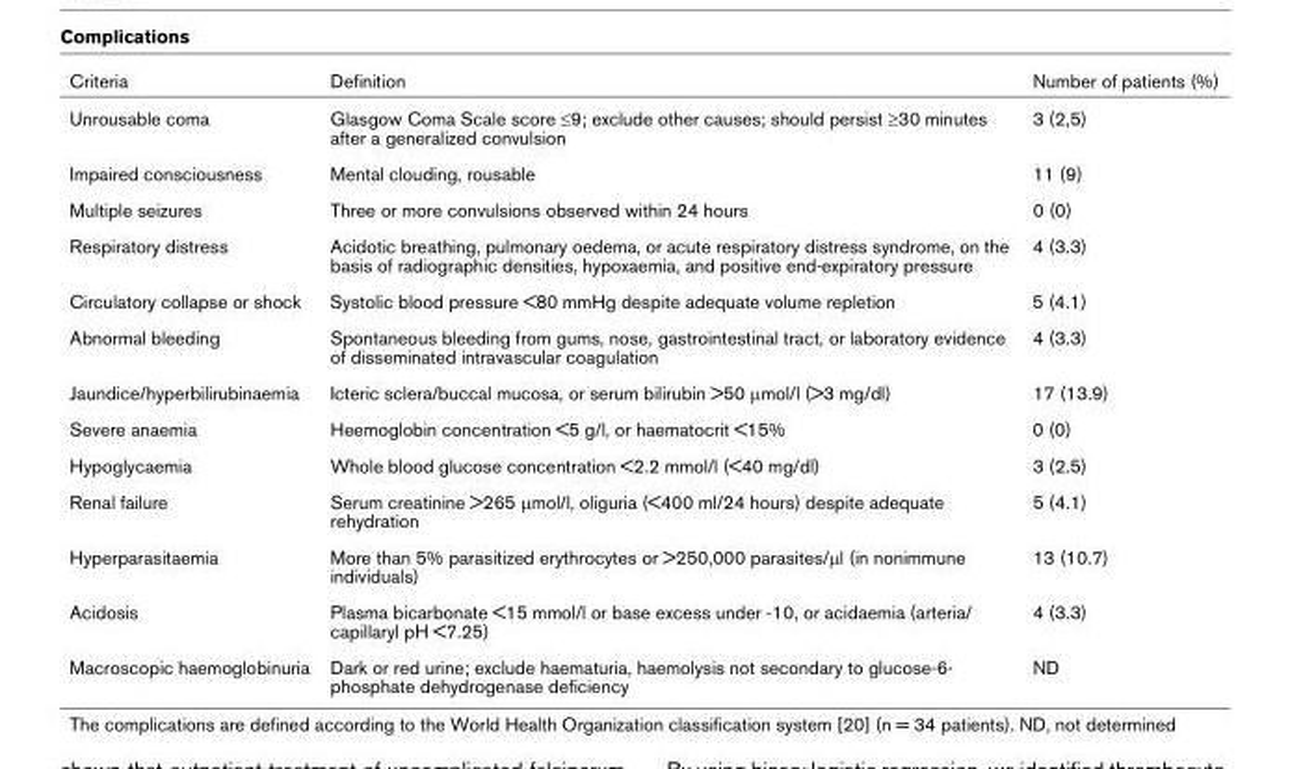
<table><thead><tr><td>Criteria</td><td>Definition</td><td>Number of patients (%)</td></tr></thead><tbody><tr><td>Unrousable coma</td><td>Glasgow Coma Scale score ≤9; exclude other causes; should persist ≥30 minutes after a generalized convulsion</td><td>3 (2,5)</td></tr><tr><td>Impaired consciousness</td><td>Mental clouding, rousable</td><td>11 (9)</td></tr><tr><td>Multiple seizures</td><td>Three or more convulsions observed within 24 hours</td><td>0 (0)</td></tr><tr><td>Respiratory distress</td><td>Acidotic breathing, pulmonary oedema, or acute respiratory distress syndrome, on the basis of radiographic densities, hypoxaemia, and positive end-expiratory pressure</td><td>4 (3.3)</td></tr><tr><td>Circulatory collapse or shock</td><td>Systolic blood pressure &lt;80 mmHg despite adequate volume repletion</td><td>5 (4.1)</td></tr><tr><td>Abnormal bleeding</td><td>Spontaneous bleeding from gums, nose, gastrointestinal tract, or laboratory evidence of disseminated intravascular coagulation</td><td>4 (3.3)</td></tr><tr><td>Jaundice/hyperbilirubinaemia</td><td>Icteric sclera/buccal mucosa, or serum bilirubin &gt;50 μmol/l (&gt;3 mg/dl)</td><td>17 (13.9)</td></tr><tr><td>Severe anaemia</td><td>Heemoglobin concentration &lt;5 g/l, or haematocrit &lt;15%</td><td>0 (0)</td></tr><tr><td>Hypoglycaemia</td><td>Whole blood glucose concentration &lt;2.2 mmol/l (&lt;40 mg/dl)</td><td>3 (2.5)</td></tr><tr><td>Renal failure</td><td>Serum creatinine &gt;265 μmol/l, oliguria (&lt;400 ml/24 hours) despite adequate rehydration</td><td>5 (4.1)</td></tr><tr><td>Hyperparasitaemia</td><td>More than 5% parasitized erythrocytes or &gt;250,000 parasites/μl (in nonimmune individuals)</td><td>13 (10.7)</td></tr><tr><td>Acidosis</td><td>Plasma bicarbonate &lt;15 mmol/l or base excess under -10, or acidaemia (arteria/ capillaryl pH &lt;7.25)</td><td>4 (3.3)</td></tr><tr><td>Macroscopic haemoglobinuria</td><td>Dark or red urine; exclude haematuria, haemolysis not secondary to glucose-6- phosphate dehydrogenase deficiency</td><td>ND</td></tr></tbody></table>